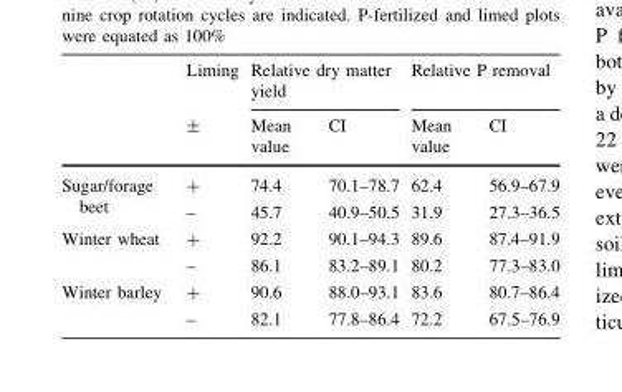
<table><thead><tr><td rowspan="2"></td><td rowspan="2">Liming ±</td><td colspan="2">Relative dry matter yield</td><td colspan="2">Relative P removal</td></tr><tr><td>Mean value</td><td>CI</td><td>Mean value</td><td>CI</td></tr></thead><tbody><tr><td rowspan="2">Sugar/forage beet</td><td>+</td><td>74.4</td><td>70.1–78.7</td><td>62.4</td><td>56.9–67.9</td></tr><tr><td>–</td><td>45.7</td><td>40.9–50.5</td><td>31.9</td><td>27.3–36.5</td></tr><tr><td rowspan="2">Winter wheat</td><td>+</td><td>92.2</td><td>90.1–94.3</td><td>89.6</td><td>87.4–91.9</td></tr><tr><td>–</td><td>86.1</td><td>83.2–89.1</td><td>80.2</td><td>77.3–83.0</td></tr><tr><td rowspan="2">Winter barley</td><td>+</td><td>90.6</td><td>88.0–93.1</td><td>83.6</td><td>80.7–86.4</td></tr><tr><td>–</td><td>82.1</td><td>77.8–86.4</td><td>72.2</td><td>67.5–76.9</td></tr></tbody></table>